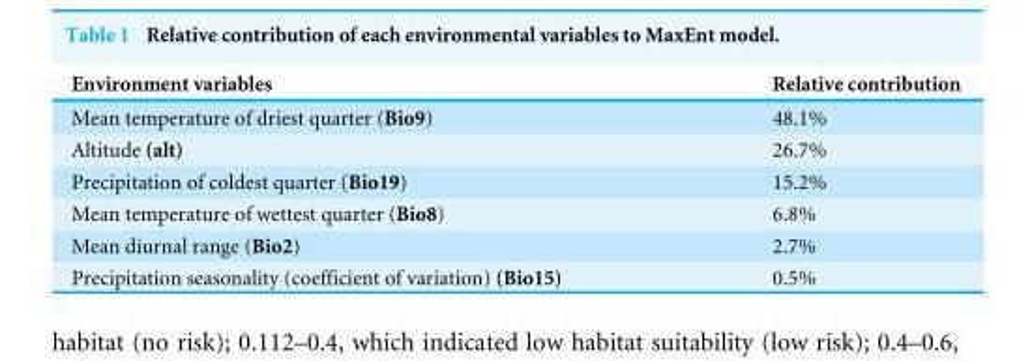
<table><thead><tr><td>Environment variables</td><td>Relative contribution</td></tr></thead><tbody><tr><td>Mean temperature of driest quarter (Bio9)</td><td>48.1%</td></tr><tr><td>Altitude (alt)</td><td>26.7%</td></tr><tr><td>Precipitation of coldest quarter (Bio19)</td><td>15.2%</td></tr><tr><td>Mean temperature of wettest quarter (Bio8)</td><td>6.8%</td></tr><tr><td>Mean diurnal range (Bio2)</td><td>2.7%</td></tr><tr><td>Precipitation seasonality (coefficient of variation) (Bio15)</td><td>0.5%</td></tr></tbody></table>